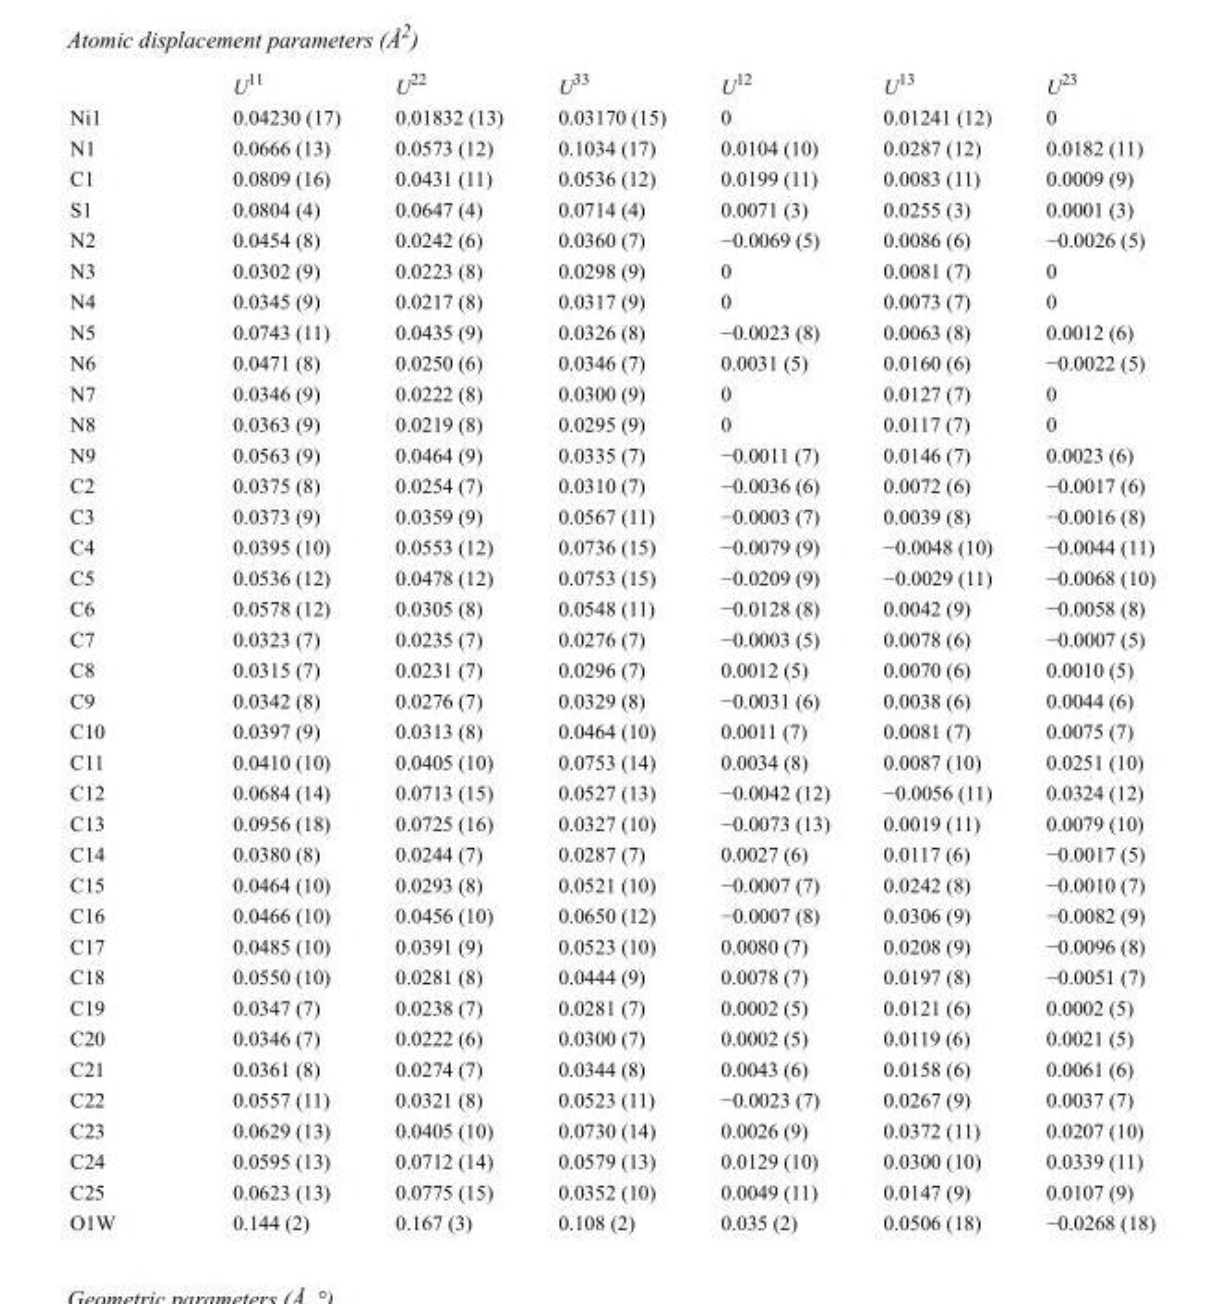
<table><thead><tr><td></td><td>U<sup>11</sup></td><td>U<sup>22</sup></td><td>U<sup>33</sup></td><td>U<sup>12</sup></td><td>U<sup>13</sup></td><td>U<sup>23</sup></td></tr></thead><tbody><tr><td>Ni1</td><td>0.04230 (17)</td><td>0.01832 (13)</td><td>0.03170 (15)</td><td>0</td><td>0.01241 (12)</td><td>0</td></tr><tr><td>N1</td><td>0.0666 (13)</td><td>0.0573 (12)</td><td>0.1034 (17)</td><td>0.0104 (10)</td><td>0.0287 (12)</td><td>0.0182 (11)</td></tr><tr><td>C1</td><td>0.0809 (16)</td><td>0.0431 (11)</td><td>0.0536 (12)</td><td>0.0199 (11)</td><td>0.0083 (11)</td><td>0.0009 (9)</td></tr><tr><td>S1</td><td>0.0804 (4)</td><td>0.0647 (4)</td><td>0.0714 (4)</td><td>0.0071 (3)</td><td>0.0255 (3)</td><td>0.0001 (3)</td></tr><tr><td>N2</td><td>0.0454 (8)</td><td>0.0242 (6)</td><td>0.0360 (7)</td><td>−0.0069 (5)</td><td>0.0086 (6)</td><td>−0.0026 (5)</td></tr><tr><td>N3</td><td>0.0302 (9)</td><td>0.0223 (8)</td><td>0.0298 (9)</td><td>0</td><td>0.0081 (7)</td><td>0</td></tr><tr><td>N4</td><td>0.0345 (9)</td><td>0.0217 (8)</td><td>0.0317 (9)</td><td>0</td><td>0.0073 (7)</td><td>0</td></tr><tr><td>N5</td><td>0.0743 (11)</td><td>0.0435 (9)</td><td>0.0326 (8)</td><td>−0.0023 (8)</td><td>0.0063 (8)</td><td>0.0012 (6)</td></tr><tr><td>N6</td><td>0.0471 (8)</td><td>0.0250 (6)</td><td>0.0346 (7)</td><td>0.0031 (5)</td><td>0.0160 (6)</td><td>−0.0022 (5)</td></tr><tr><td>N7</td><td>0.0346 (9)</td><td>0.0222 (8)</td><td>0.0300 (9)</td><td>0</td><td>0.0127 (7)</td><td>0</td></tr><tr><td>N8</td><td>0.0363 (9)</td><td>0.0219 (8)</td><td>0.0295 (9)</td><td>0</td><td>0.0117 (7)</td><td>0</td></tr><tr><td>N9</td><td>0.0563 (9)</td><td>0.0464 (9)</td><td>0.0335 (7)</td><td>−0.0011 (7)</td><td>0.0146 (7)</td><td>0.0023 (6)</td></tr><tr><td>C2</td><td>0.0375 (8)</td><td>0.0254 (7)</td><td>0.0310 (7)</td><td>−0.0036 (6)</td><td>0.0072 (6)</td><td>−0.0017 (6)</td></tr><tr><td>C3</td><td>0.0373 (9)</td><td>0.0359 (9)</td><td>0.0567 (11)</td><td>−0.0003 (7)</td><td>0.0039 (8)</td><td>−0.0016 (8)</td></tr><tr><td>C4</td><td>0.0395 (10)</td><td>0.0553 (12)</td><td>0.0736 (15)</td><td>−0.0079 (9)</td><td>−0.0048 (10)</td><td>−0.0044 (11)</td></tr><tr><td>C5</td><td>0.0536 (12)</td><td>0.0478 (12)</td><td>0.0753 (15)</td><td>−0.0209 (9)</td><td>−0.0029 (11)</td><td>−0.0068 (10)</td></tr><tr><td>C6</td><td>0.0578 (12)</td><td>0.0305 (8)</td><td>0.0548 (11)</td><td>−0.0128 (8)</td><td>0.0042 (9)</td><td>−0.0058 (8)</td></tr><tr><td>C7</td><td>0.0323 (7)</td><td>0.0235 (7)</td><td>0.0276 (7)</td><td>−0.0003 (5)</td><td>0.0078 (6)</td><td>−0.0007 (5)</td></tr><tr><td>C8</td><td>0.0315 (7)</td><td>0.0231 (7)</td><td>0.0296 (7)</td><td>0.0012 (5)</td><td>0.0070 (6)</td><td>0.0010 (5)</td></tr><tr><td>C9</td><td>0.0342 (8)</td><td>0.0276 (7)</td><td>0.0329 (8)</td><td>−0.0031 (6)</td><td>0.0038 (6)</td><td>0.0044 (6)</td></tr><tr><td>C10</td><td>0.0397 (9)</td><td>0.0313 (8)</td><td>0.0464 (10)</td><td>0.0011 (7)</td><td>0.0081 (7)</td><td>0.0075 (7)</td></tr><tr><td>C11</td><td>0.0410 (10)</td><td>0.0405 (10)</td><td>0.0753 (14)</td><td>0.0034 (8)</td><td>0.0087 (10)</td><td>0.0251 (10)</td></tr><tr><td>C12</td><td>0.0684 (14)</td><td>0.0713 (15)</td><td>0.0527 (13)</td><td>−0.0042 (12)</td><td>−0.0056 (11)</td><td>0.0324 (12)</td></tr><tr><td>C13</td><td>0.0956 (18)</td><td>0.0725 (16)</td><td>0.0327 (10)</td><td>−0.0073 (13)</td><td>0.0019 (11)</td><td>0.0079 (10)</td></tr><tr><td>C14</td><td>0.0380 (8)</td><td>0.0244 (7)</td><td>0.0287 (7)</td><td>0.0027 (6)</td><td>0.0117 (6)</td><td>−0.0017 (5)</td></tr><tr><td>C15</td><td>0.0464 (10)</td><td>0.0293 (8)</td><td>0.0521 (10)</td><td>−0.0007 (7)</td><td>0.0242 (8)</td><td>−0.0010 (7)</td></tr><tr><td>C16</td><td>0.0466 (10)</td><td>0.0456 (10)</td><td>0.0650 (12)</td><td>−0.0007 (8)</td><td>0.0306 (9)</td><td>−0.0082 (9)</td></tr><tr><td>C17</td><td>0.0485 (10)</td><td>0.0391 (9)</td><td>0.0523 (10)</td><td>0.0080 (7)</td><td>0.0208 (9)</td><td>−0.0096 (8)</td></tr><tr><td>C18</td><td>0.0550 (10)</td><td>0.0281 (8)</td><td>0.0444 (9)</td><td>0.0078 (7)</td><td>0.0197 (8)</td><td>−0.0051 (7)</td></tr><tr><td>C19</td><td>0.0347 (7)</td><td>0.0238 (7)</td><td>0.0281 (7)</td><td>0.0002 (5)</td><td>0.0121 (6)</td><td>0.0002 (5)</td></tr><tr><td>C20</td><td>0.0346 (7)</td><td>0.0222 (6)</td><td>0.0300 (7)</td><td>0.0002 (5)</td><td>0.0119 (6)</td><td>0.0021 (5)</td></tr><tr><td>C21</td><td>0.0361 (8)</td><td>0.0274 (7)</td><td>0.0344 (8)</td><td>0.0043 (6)</td><td>0.0158 (6)</td><td>0.0061 (6)</td></tr><tr><td>C22</td><td>0.0557 (11)</td><td>0.0321 (8)</td><td>0.0523 (11)</td><td>−0.0023 (7)</td><td>0.0267 (9)</td><td>0.0037 (7)</td></tr><tr><td>C23</td><td>0.0629 (13)</td><td>0.0405 (10)</td><td>0.0730 (14)</td><td>0.0026 (9)</td><td>0.0372 (11)</td><td>0.0207 (10)</td></tr><tr><td>C24</td><td>0.0595 (13)</td><td>0.0712 (14)</td><td>0.0579 (13)</td><td>0.0129 (10)</td><td>0.0300 (10)</td><td>0.0339 (11)</td></tr><tr><td>C25</td><td>0.0623 (13)</td><td>0.0775 (15)</td><td>0.0352 (10)</td><td>0.0049 (11)</td><td>0.0147 (9)</td><td>0.0107 (9)</td></tr><tr><td>O1W</td><td>0.144 (2)</td><td>0.167 (3)</td><td>0.108 (2)</td><td>0.035 (2)</td><td>0.0506 (18)</td><td>−0.0268 (18)</td></tr></tbody></table>